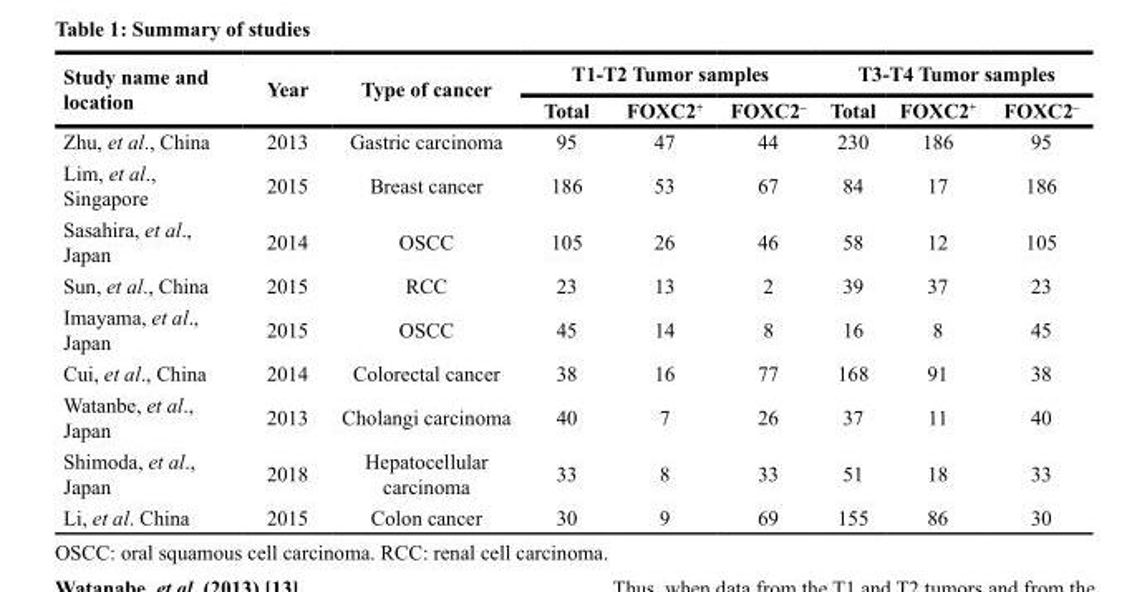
<table><thead><tr><td rowspan="2">Study name and location</td><td rowspan="2">Year</td><td rowspan="2">Type of cancer</td><td colspan="3">T1-T2 Tumor samples</td><td colspan="3">T3-T4 Tumor samples</td></tr><tr><td>Total</td><td>FOXC2<sup>+</sup></td><td>FOXC2<sup>–</sup></td><td>Total</td><td>FOXC2<sup>+</sup></td><td>FOXC2<sup>–</sup></td></tr></thead><tbody><tr><td>Zhu, et al., China</td><td>2013</td><td>Gastric carcinoma</td><td>95</td><td>47</td><td>44</td><td>230</td><td>186</td><td>95</td></tr><tr><td>Lim, et al., Singapore</td><td>2015</td><td>Breast cancer</td><td>186</td><td>53</td><td>67</td><td>84</td><td>17</td><td>186</td></tr><tr><td>Sasahira, et al., Japan</td><td>2014</td><td>OSCC</td><td>105</td><td>26</td><td>46</td><td>58</td><td>12</td><td>105</td></tr><tr><td>Sun, et al., China</td><td>2015</td><td>RCC</td><td>23</td><td>13</td><td>2</td><td>39</td><td>37</td><td>23</td></tr><tr><td>Imayama, et al., Japan</td><td>2015</td><td>OSCC</td><td>45</td><td>14</td><td>8</td><td>16</td><td>8</td><td>45</td></tr><tr><td>Cui, et al., China</td><td>2014</td><td>Colorectal cancer</td><td>38</td><td>16</td><td>77</td><td>168</td><td>91</td><td>38</td></tr><tr><td>Watanbe, et al., Japan</td><td>2013</td><td>Cholangi carcinoma</td><td>40</td><td>7</td><td>26</td><td>37</td><td>11</td><td>40</td></tr><tr><td>Shimoda, et al., Japan</td><td>2018</td><td>Hepatocellular carcinoma</td><td>33</td><td>8</td><td>33</td><td>51</td><td>18</td><td>33</td></tr><tr><td>Li, et al. China</td><td>2015</td><td>Colon cancer</td><td>30</td><td>9</td><td>69</td><td>155</td><td>86</td><td>30</td></tr></tbody></table>